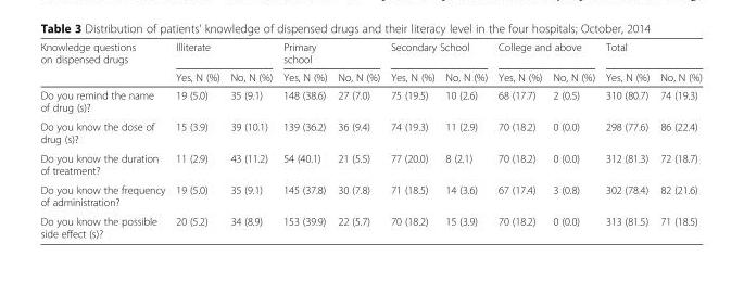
<table><thead><tr><td rowspan="2">Knowledge questions on dispensed drugs</td><td colspan="2">Illiterate</td><td colspan="2">Primary school</td><td colspan="2">Secondary School</td><td colspan="2">College and above</td><td colspan="2">Total</td></tr><tr><td>Yes, N (%)</td><td>No, N (%)</td><td>Yes, N (%)</td><td>No, N (%)</td><td>Yes, N (%)</td><td>No, N (%)</td><td>Yes, N (%)</td><td>No, N (%)</td><td>Yes, N (%)</td><td>No, N (%)</td></tr></thead><tbody><tr><td>Do you remind the name of drug (s)?</td><td>19 (5.0)</td><td>35 (9.1)</td><td>148 (38.6)</td><td>27 (7.0)</td><td>75 (19.5)</td><td>10 (2.6)</td><td>68 (17.7)</td><td>2 (0.5)</td><td>310 (80.7)</td><td>74 (19.3)</td></tr><tr><td>Do you know the dose of drug (s)?</td><td>15 (3.9)</td><td>39 (10.1)</td><td>139 (36.2)</td><td>36 (9.4)</td><td>74 (19.3)</td><td>11 (2.9)</td><td>70 (18.2)</td><td>0 (0.0)</td><td>298 (77.6)</td><td>86 (22.4)</td></tr><tr><td>Do you know the duration of treatment?</td><td>11 (2.9)</td><td>43 (11.2)</td><td>54 (40.1)</td><td>21 (5.5)</td><td>77 (20.0)</td><td>8 (2.1)</td><td>70 (18.2)</td><td>0 (0.0)</td><td>312 (81.3)</td><td>72 (18.7)</td></tr><tr><td>Do you know the frequency of administration?</td><td>19 (5.0)</td><td>35 (9.1)</td><td>145 (37.8)</td><td>30 (7.8)</td><td>71 (18.5)</td><td>14 (3.6)</td><td>67 (17.4)</td><td>3 (0.8)</td><td>302 (78.4)</td><td>82 (21.6)</td></tr><tr><td>Do you know the possible side effect (s)?</td><td>20 (5.2)</td><td>34 (8.9)</td><td>153 (39.9)</td><td>22 (5.7)</td><td>70 (18.2)</td><td>15 (3.9)</td><td>70 (18.2)</td><td>0 (0.0)</td><td>313 (81.5)</td><td>71 (18.5)</td></tr></tbody></table>